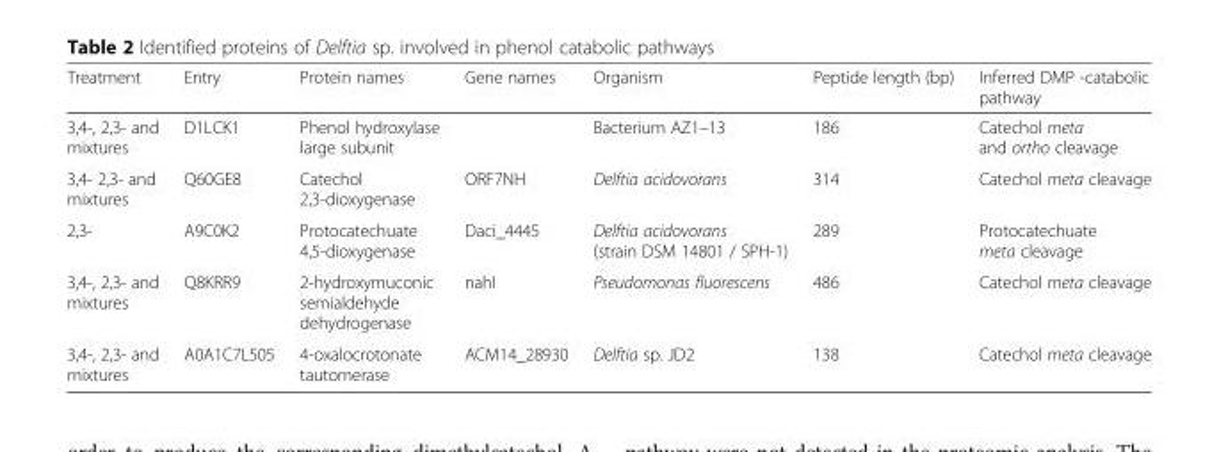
<table><thead><tr><td>Treatment</td><td>Entry</td><td>Protein names</td><td>Gene names</td><td>Organism</td><td>Peptide length (bp)</td><td>Inferred DMP -catabolic pathway</td></tr></thead><tbody><tr><td>3,4-, 2,3- and mixtures</td><td>D1LCK1</td><td>Phenol hydroxylase large subunit</td><td></td><td>Bacterium AZ1–13</td><td>186</td><td>Catechol meta and ortho cleavage</td></tr><tr><td>3,4- 2,3- and mixtures</td><td>Q60GE8</td><td>Catechol 2,3-dioxygenase</td><td>ORF7NH</td><td>Delftia acidovorans</td><td>314</td><td>Catechol meta cleavage</td></tr><tr><td>2,3-</td><td>A9C0K2</td><td>Protocatechuate 4,5-dioxygenase</td><td>Daci_4445</td><td>Delftia acidovorans (strain DSM 14801 / SPH-1)</td><td>289</td><td>Protocatechuate meta cleavage</td></tr><tr><td>3,4-, 2,3- and mixtures</td><td>Q8KRR9</td><td>2-hydroxymuconic semialdehyde dehydrogenase</td><td>nahI</td><td>Pseudomonas fluorescens</td><td>486</td><td>Catechol meta cleavage</td></tr><tr><td>3,4-, 2,3- and mixtures</td><td>A0A1C7L505</td><td>4-oxalocrotonate tautomerase</td><td>ACM14_28930</td><td>Delftia sp. JD2</td><td>138</td><td>Catechol meta cleavage</td></tr></tbody></table>